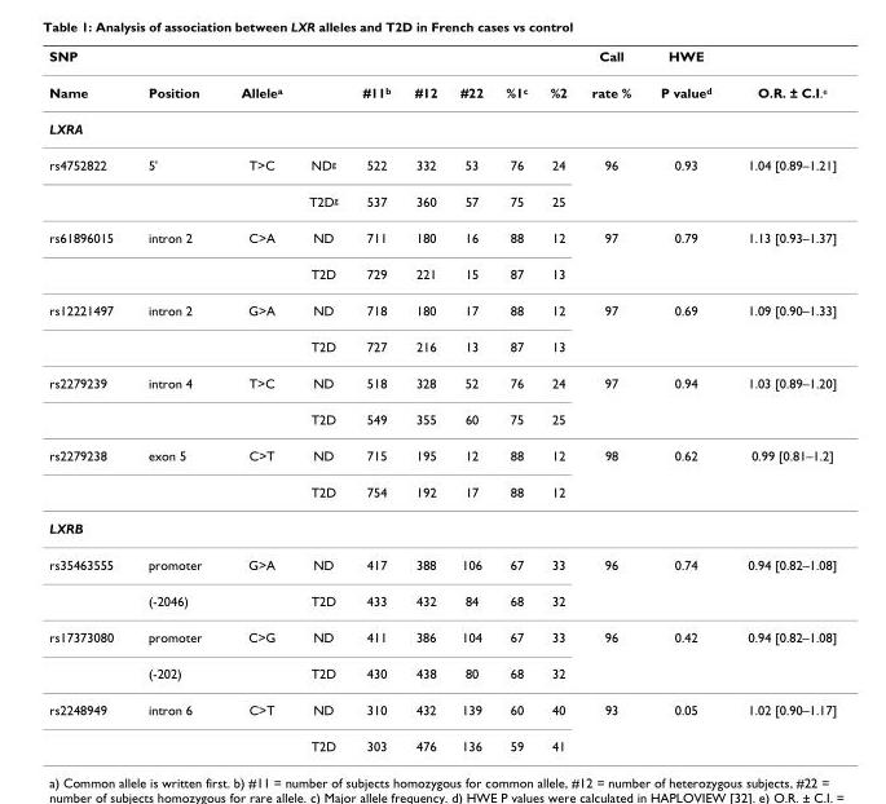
<table><thead><tr><td>SNP</td><td></td><td></td><td></td><td></td><td></td><td></td><td></td><td></td><td>Call</td><td>HWE</td><td></td></tr></thead><tbody><tr><td>Name</td><td>Position</td><td>Allele<sup>a</sup></td><td></td><td>#11<sup>b</sup></td><td>#12</td><td>#22</td><td>%1<sup>c</sup></td><td>%2</td><td>rate %</td><td>P value<sup>d</sup></td><td>O.R. ± C.I.<sup>e</sup></td></tr><tr><td colspan="12">LXRA</td></tr><tr><td rowspan="2">rs4752822</td><td>5&#x27;</td><td>T&gt;C</td><td>ND<sup>g</sup></td><td>522</td><td>332</td><td>53</td><td>76</td><td>24</td><td>96</td><td>0.93</td><td>1.04 [0.89–1.21]</td></tr><tr><td></td><td></td><td>T2D<sup>g</sup></td><td>537</td><td>360</td><td>57</td><td>75</td><td>25</td><td></td><td></td><td></td></tr><tr><td rowspan="2">rs61896015</td><td>intron 2</td><td>C&gt;A</td><td>ND</td><td>711</td><td>180</td><td>16</td><td>88</td><td>12</td><td>97</td><td>0.79</td><td>1.13 [0.93–1.37]</td></tr><tr><td></td><td></td><td>T2D</td><td>729</td><td>221</td><td>15</td><td>87</td><td>13</td><td></td><td></td><td></td></tr><tr><td rowspan="2">rs12221497</td><td>intron 2</td><td>G&gt;A</td><td>ND</td><td>718</td><td>180</td><td>17</td><td>88</td><td>12</td><td>97</td><td>0.69</td><td>1.09 [0.90–1.33]</td></tr><tr><td></td><td></td><td>T2D</td><td>727</td><td>216</td><td>13</td><td>87</td><td>13</td><td></td><td></td><td></td></tr><tr><td rowspan="2">rs2279239</td><td>intron 4</td><td>T&gt;C</td><td>ND</td><td>518</td><td>328</td><td>52</td><td>76</td><td>24</td><td>97</td><td>0.94</td><td>1.03 [0.89–1.20]</td></tr><tr><td></td><td></td><td>T2D</td><td>549</td><td>355</td><td>60</td><td>75</td><td>25</td><td></td><td></td><td></td></tr><tr><td rowspan="2">rs2279238</td><td>exon 5</td><td>C&gt;T</td><td>ND</td><td>715</td><td>195</td><td>12</td><td>88</td><td>12</td><td>98</td><td>0.62</td><td>0.99 [0.81–1.2]</td></tr><tr><td></td><td></td><td>T2D</td><td>754</td><td>192</td><td>17</td><td>88</td><td>12</td><td></td><td></td><td></td></tr><tr><td colspan="12">LXRB</td></tr><tr><td rowspan="2">rs35463555</td><td>promoter</td><td>G&gt;A</td><td>ND</td><td>417</td><td>388</td><td>106</td><td>67</td><td>33</td><td>96</td><td>0.74</td><td>0.94 [0.82–1.08]</td></tr><tr><td>(-2046)</td><td></td><td>T2D</td><td>433</td><td>432</td><td>84</td><td>68</td><td>32</td><td></td><td></td><td></td></tr><tr><td rowspan="2">rs17373080</td><td>promoter</td><td>C&gt;G</td><td>ND</td><td>411</td><td>386</td><td>104</td><td>67</td><td>33</td><td>96</td><td>0.42</td><td>0.94 [0.82–1.08]</td></tr><tr><td>(-202)</td><td></td><td>T2D</td><td>430</td><td>438</td><td>80</td><td>68</td><td>32</td><td></td><td></td><td></td></tr><tr><td rowspan="2">rs2248949</td><td>intron 6</td><td>C&gt;T</td><td>ND</td><td>310</td><td>432</td><td>139</td><td>60</td><td>40</td><td>93</td><td>0.05</td><td>1.02 [0.90–1.17]</td></tr><tr><td></td><td></td><td>T2D</td><td>303</td><td>476</td><td>136</td><td>59</td><td>41</td><td></td><td></td><td></td></tr></tbody></table>